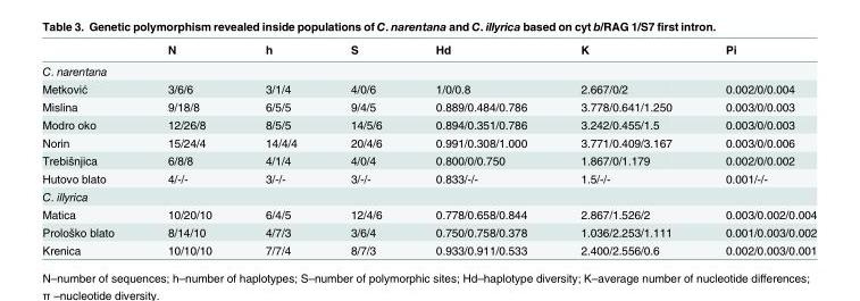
<table><thead><tr><td></td><td>N</td><td>h</td><td>S</td><td>Hd</td><td>K</td><td>Pi</td></tr></thead><tbody><tr><td colspan="7">C. narentana</td></tr><tr><td>Metković</td><td>3/6/6</td><td>3/1/4</td><td>4/0/6</td><td>1/0/0.8</td><td>2.667/0/2</td><td>0.002/0/0.004</td></tr><tr><td>Mislina</td><td>9/18/8</td><td>6/5/5</td><td>9/4/5</td><td>0.889/0.484/0.786</td><td>3.778/0.641/1.250</td><td>0.003/0/0.003</td></tr><tr><td>Modro oko</td><td>12/26/8</td><td>8/5/5</td><td>14/5/6</td><td>0.894/0.351/0.786</td><td>3.242/0.455/1.5</td><td>0.003/0/0.003</td></tr><tr><td>Norin</td><td>15/24/4</td><td>14/4/4</td><td>20/4/6</td><td>0.991/0.308/1.000</td><td>3.771/0.409/3.167</td><td>0.003/0/0.006</td></tr><tr><td>Trebišnjica</td><td>6/8/8</td><td>4/1/4</td><td>4/0/4</td><td>0.800/0/0.750</td><td>1.867/0/1.179</td><td>0.002/0/0.002</td></tr><tr><td>Hutovo blato</td><td>4/-/-</td><td>3/-/-</td><td>3/-/-</td><td>0.833/-/-</td><td>1.5/-/-</td><td>0.001/-/-</td></tr><tr><td colspan="7">C. illyrica</td></tr><tr><td>Matica</td><td>10/20/10</td><td>6/4/5</td><td>12/4/6</td><td>0.778/0.658/0.844</td><td>2.867/1.526/2</td><td>0.003/0.002/0.004</td></tr><tr><td>Prološko blato</td><td>8/14/10</td><td>4/7/3</td><td>3/6/4</td><td>0.750/0.758/0.378</td><td>1.036/2.253/1.111</td><td>0.001/0.003/0.002</td></tr><tr><td>Krenica</td><td>10/10/10</td><td>7/7/4</td><td>8/7/3</td><td>0.933/0.911/0.533</td><td>2.400/2.556/0.6</td><td>0.002/0.003/0.001</td></tr></tbody></table>